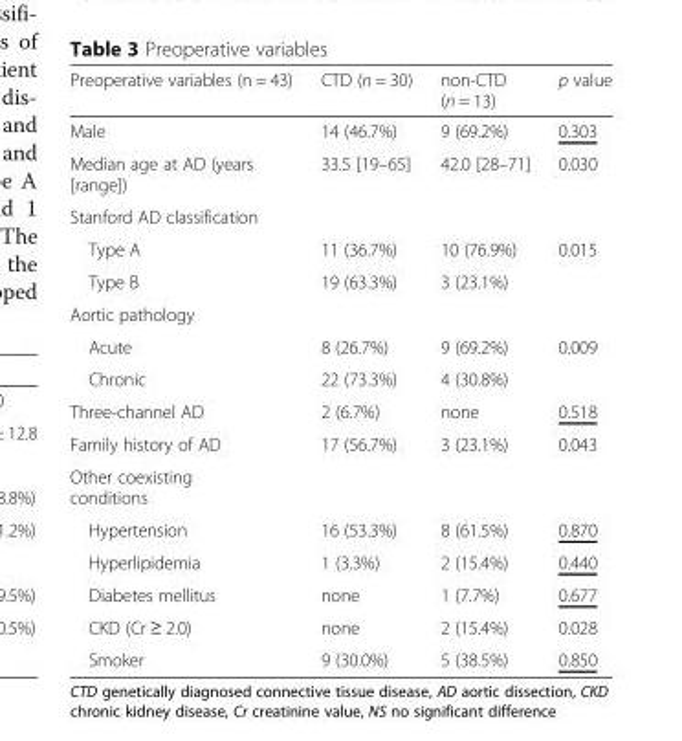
<table><thead><tr><td>Preoperative variables (n = 43)</td><td>CTD (n = 30)</td><td>non-CTD (n = 13)</td><td>p value</td></tr></thead><tbody><tr><td>Male</td><td>14 (46.7%)</td><td>9 (69.2%)</td><td>0.303</td></tr><tr><td>Median age at AD (years [range])</td><td>33.5 [19–65]</td><td>42.0 [28–71]</td><td>0.030</td></tr><tr><td colspan="4">Stanford AD classification</td></tr><tr><td>Type A</td><td>11 (36.7%)</td><td>10 (76.9%)</td><td>0.015</td></tr><tr><td>Type B</td><td>19 (63.3%)</td><td>3 (23.1%)</td><td></td></tr><tr><td colspan="4">Aortic pathology</td></tr><tr><td>Acute</td><td>8 (26.7%)</td><td>9 (69.2%)</td><td>0.009</td></tr><tr><td>Chronic</td><td>22 (73.3%)</td><td>4 (30.8%)</td><td></td></tr><tr><td>Three-channel AD</td><td>2 (6.7%)</td><td>none</td><td>0.518</td></tr><tr><td>Family history of AD</td><td>17 (56.7%)</td><td>3 (23.1%)</td><td>0.043</td></tr><tr><td colspan="4">Other coexisting conditions</td></tr><tr><td>Hypertension</td><td>16 (53.3%)</td><td>8 (61.5%)</td><td>0.870</td></tr><tr><td>Hyperlipidemia</td><td>1 (3.3%)</td><td>2 (15.4%)</td><td>0.440</td></tr><tr><td>Diabetes mellitus</td><td>none</td><td>1 (7.7%)</td><td>0.677</td></tr><tr><td>CKD (Cr ≥ 2.0)</td><td>none</td><td>2 (15.4%)</td><td>0.028</td></tr><tr><td>Smoker</td><td>9 (30.0%)</td><td>5 (38.5%)</td><td>0.850</td></tr></tbody></table>